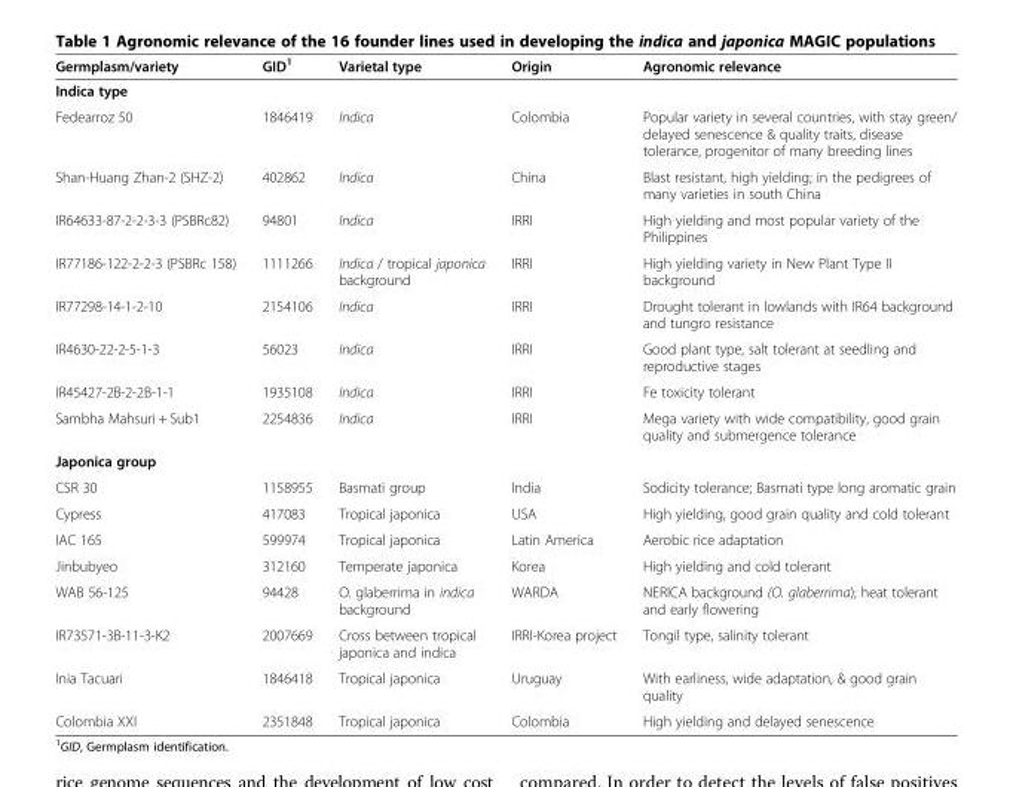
<table><thead><tr><td>Germplasm/variety</td><td>GID<sup>1</sup></td><td>Varietal type</td><td>Origin</td><td>Agronomic relevance</td></tr></thead><tbody><tr><td colspan="5">Indica type</td></tr><tr><td>Fedearroz 50</td><td>1846419</td><td>Indica</td><td>Colombia</td><td>Popular variety in several countries, with stay green/ delayed senescence &amp; quality traits, disease tolerance, progenitor of many breeding lines</td></tr><tr><td>Shan-Huang Zhan-2 (SHZ-2)</td><td>402862</td><td>Indica</td><td>China</td><td>Blast resistant, high yielding; in the pedigrees of many varieties in south China</td></tr><tr><td>IR64633-87-2-2-3-3 (PSBRc82)</td><td>94801</td><td>Indica</td><td>IRRI</td><td>High yielding and most popular variety of the Philippines</td></tr><tr><td>IR77186-122-2-2-3 (PSBRc 158)</td><td>1111266</td><td>Indica / tropical japonica background</td><td>IRRI</td><td>High yielding variety in New Plant Type II background</td></tr><tr><td>IR77298-14-1-2-10</td><td>2154106</td><td>Indica</td><td>IRRI</td><td>Drought tolerant in lowlands with IR64 background and tungro resistance</td></tr><tr><td>IR4630-22-2-5-1-3</td><td>56023</td><td>Indica</td><td>IRRI</td><td>Good plant type, salt tolerant at seedling and reproductive stages</td></tr><tr><td>IR45427-2B-2-2B-1-1</td><td>1935108</td><td>Indica</td><td>IRRI</td><td>Fe toxicity tolerant</td></tr><tr><td>Sambha Mahsuri + Sub1</td><td>2254836</td><td>Indica</td><td>IRRI</td><td>Mega variety with wide compatibility, good grain quality and submergence tolerance</td></tr><tr><td colspan="5">Japonica group</td></tr><tr><td>CSR 30</td><td>1158955</td><td>Basmati group</td><td>India</td><td>Sodicity tolerance; Basmati type long aromatic grain</td></tr><tr><td>Cypress</td><td>417083</td><td>Tropical japonica</td><td>USA</td><td>High yielding, good grain quality and cold tolerant</td></tr><tr><td>IAC 165</td><td>599974</td><td>Tropical japonica</td><td>Latin America</td><td>Aerobic rice adaptation</td></tr><tr><td>Jinbubyeo</td><td>312160</td><td>Temperate japonica</td><td>Korea</td><td>High yielding and cold tolerant</td></tr><tr><td>WAB 56-125</td><td>94428</td><td>O. glaberrima in indica background</td><td>WARDA</td><td>NERICA background (O. glaberrima); heat tolerant and early flowering</td></tr><tr><td>IR73571-3B-11-3-K2</td><td>2007669</td><td>Cross between tropical japonica and indica</td><td>IRRI-Korea project</td><td>Tongil type, salinity tolerant</td></tr><tr><td>Inia Tacuari</td><td>1846418</td><td>Tropical japonica</td><td>Uruguay</td><td>With earliness, wide adaptation, &amp; good grain quality</td></tr><tr><td>Colombia XXI</td><td>2351848</td><td>Tropical japonica</td><td>Colombia</td><td>High yielding and delayed senescence</td></tr></tbody></table>